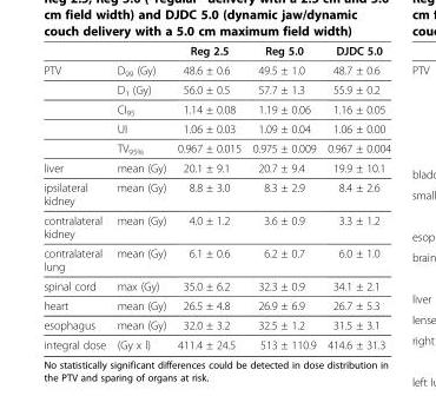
<table><thead><tr><td></td><td></td><td>Reg 2.5</td><td>Reg 5.0</td><td>DJDC 5.0</td></tr></thead><tbody><tr><td rowspan="5">PTV</td><td>D<sub>99</sub> (Gy)</td><td>48.6 ± 0.6</td><td>49.5 ± 1.0</td><td>48.7 ± 0.6</td></tr><tr><td>D<sub>1</sub> (Gy)</td><td>56.0 ± 0.5</td><td>57.7 ± 1.3</td><td>55.9 ± 0.2</td></tr><tr><td>CI<sub>95</sub></td><td>1.14 ± 0.08</td><td>1.19 ± 0.06</td><td>1.16 ± 0.05</td></tr><tr><td>UI</td><td>1.06 ± 0.03</td><td>1.09 ± 0.04</td><td>1.06 ± 0.00</td></tr><tr><td>TV<sub>95%</sub></td><td>0.967 ± 0.015</td><td>0.975 ± 0.009</td><td>0.967 ± 0.004</td></tr><tr><td>liver</td><td>mean (Gy)</td><td>20.1 ± 9.1</td><td>20.7 ± 9.4</td><td>19.9 ± 10.1</td></tr><tr><td>ipsilateral kidney</td><td>mean (Gy)</td><td>8.8 ± 3.0</td><td>8.3 ± 2.9</td><td>8.4 ± 2.6</td></tr><tr><td>contralateral kidney</td><td>mean (Gy)</td><td>4.0 ± 1.2</td><td>3.6 ± 0.9</td><td>3.3 ± 1.2</td></tr><tr><td>contralateral lung</td><td>mean (Gy)</td><td>6.1 ± 0.6</td><td>6.2 ± 0.7</td><td>6.0 ± 1.0</td></tr><tr><td>spinal cord</td><td>max (Gy)</td><td>35.0 ± 6.2</td><td>32.3 ± 0.9</td><td>34.1 ± 2.1</td></tr><tr><td>heart</td><td>mean (Gy)</td><td>26.5 ± 4.8</td><td>26.9 ± 6.9</td><td>26.7 ± 5.3</td></tr><tr><td>esophagus</td><td>mean (Gy)</td><td>32.0 ± 3.2</td><td>32.5 ± 1.2</td><td>31.5 ± 3.1</td></tr><tr><td>integral dose</td><td>(Gy x l)</td><td>411.4 ± 24.5</td><td>513 ± 110.9</td><td>414.6 ± 31.3</td></tr></tbody></table>